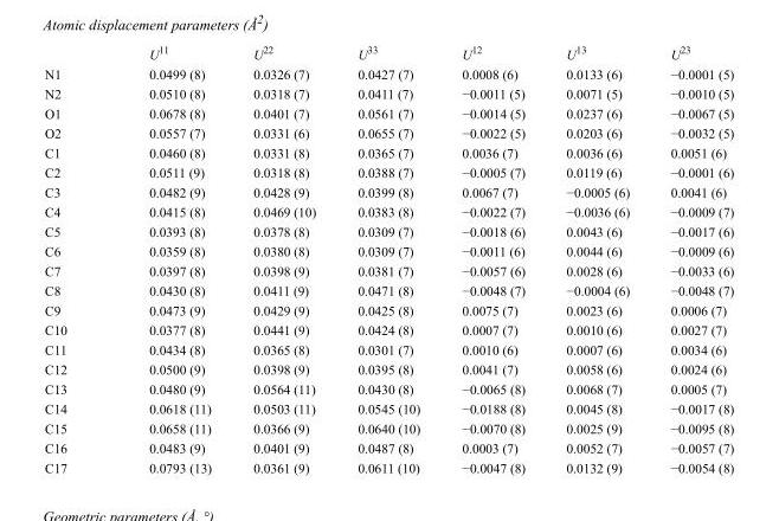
<table><thead><tr><td></td><td>U<sup>11</sup></td><td>U<sup>22</sup></td><td>U<sup>33</sup></td><td>U<sup>12</sup></td><td>U<sup>13</sup></td><td>U<sup>23</sup></td></tr></thead><tbody><tr><td>N1</td><td>0.0499 (8)</td><td>0.0326 (7)</td><td>0.0427 (7)</td><td>0.0008 (6)</td><td>0.0133 (6)</td><td>−0.0001 (5)</td></tr><tr><td>N2</td><td>0.0510 (8)</td><td>0.0318 (7)</td><td>0.0411 (7)</td><td>−0.0011 (5)</td><td>0.0071 (5)</td><td>−0.0010 (5)</td></tr><tr><td>O1</td><td>0.0678 (8)</td><td>0.0401 (7)</td><td>0.0561 (7)</td><td>−0.0014 (5)</td><td>0.0237 (6)</td><td>−0.0067 (5)</td></tr><tr><td>O2</td><td>0.0557 (7)</td><td>0.0331 (6)</td><td>0.0655 (7)</td><td>−0.0022 (5)</td><td>0.0203 (6)</td><td>−0.0032 (5)</td></tr><tr><td>C1</td><td>0.0460 (8)</td><td>0.0331 (8)</td><td>0.0365 (7)</td><td>0.0036 (7)</td><td>0.0036 (6)</td><td>0.0051 (6)</td></tr><tr><td>C2</td><td>0.0511 (9)</td><td>0.0318 (8)</td><td>0.0388 (7)</td><td>−0.0005 (7)</td><td>0.0119 (6)</td><td>−0.0001 (6)</td></tr><tr><td>C3</td><td>0.0482 (9)</td><td>0.0428 (9)</td><td>0.0399 (8)</td><td>0.0067 (7)</td><td>−0.0005 (6)</td><td>0.0041 (6)</td></tr><tr><td>C4</td><td>0.0415 (8)</td><td>0.0469 (10)</td><td>0.0383 (8)</td><td>−0.0022 (7)</td><td>−0.0036 (6)</td><td>−0.0009 (7)</td></tr><tr><td>C5</td><td>0.0393 (8)</td><td>0.0378 (8)</td><td>0.0309 (7)</td><td>−0.0018 (6)</td><td>0.0043 (6)</td><td>−0.0017 (6)</td></tr><tr><td>C6</td><td>0.0359 (8)</td><td>0.0380 (8)</td><td>0.0309 (7)</td><td>−0.0011 (6)</td><td>0.0044 (6)</td><td>−0.0009 (6)</td></tr><tr><td>C7</td><td>0.0397 (8)</td><td>0.0398 (9)</td><td>0.0381 (7)</td><td>−0.0057 (6)</td><td>0.0028 (6)</td><td>−0.0033 (6)</td></tr><tr><td>C8</td><td>0.0430 (8)</td><td>0.0411 (9)</td><td>0.0471 (8)</td><td>−0.0048 (7)</td><td>−0.0004 (6)</td><td>−0.0048 (7)</td></tr><tr><td>C9</td><td>0.0473 (9)</td><td>0.0429 (9)</td><td>0.0425 (8)</td><td>0.0075 (7)</td><td>0.0023 (6)</td><td>0.0006 (7)</td></tr><tr><td>C10</td><td>0.0377 (8)</td><td>0.0441 (9)</td><td>0.0424 (8)</td><td>0.0007 (7)</td><td>0.0010 (6)</td><td>0.0027 (7)</td></tr><tr><td>C11</td><td>0.0434 (8)</td><td>0.0365 (8)</td><td>0.0301 (7)</td><td>0.0010 (6)</td><td>0.0007 (6)</td><td>0.0034 (6)</td></tr><tr><td>C12</td><td>0.0500 (9)</td><td>0.0398 (9)</td><td>0.0395 (8)</td><td>0.0041 (7)</td><td>0.0058 (6)</td><td>0.0024 (6)</td></tr><tr><td>C13</td><td>0.0480 (9)</td><td>0.0564 (11)</td><td>0.0430 (8)</td><td>−0.0065 (8)</td><td>0.0068 (7)</td><td>0.0005 (7)</td></tr><tr><td>C14</td><td>0.0618 (11)</td><td>0.0503 (11)</td><td>0.0545 (10)</td><td>−0.0188 (8)</td><td>0.0045 (8)</td><td>−0.0017 (8)</td></tr><tr><td>C15</td><td>0.0658 (11)</td><td>0.0366 (9)</td><td>0.0640 (10)</td><td>−0.0070 (8)</td><td>0.0025 (9)</td><td>−0.0095 (8)</td></tr><tr><td>C16</td><td>0.0483 (9)</td><td>0.0401 (9)</td><td>0.0487 (8)</td><td>0.0003 (7)</td><td>0.0052 (7)</td><td>−0.0057 (7)</td></tr><tr><td>C17</td><td>0.0793 (13)</td><td>0.0361 (9)</td><td>0.0611 (10)</td><td>−0.0047 (8)</td><td>0.0132 (9)</td><td>−0.0054 (8)</td></tr></tbody></table>